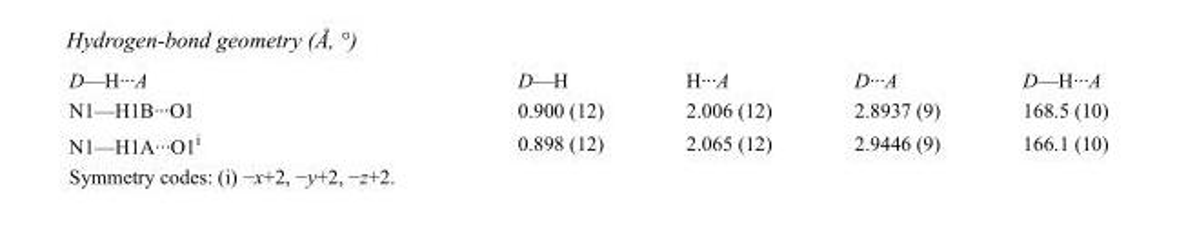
<table><tbody><tr><td>D—H···A</td><td>D—H</td><td>H···A</td><td>D···A</td><td>D—H···A</td></tr><tr><td>N1—H1B···O1</td><td>0.900 (12)</td><td>2.006 (12)</td><td>2.8937 (9)</td><td>168.5 (10)</td></tr><tr><td>N1—H1A···O1<sup>i</sup></td><td>0.898 (12)</td><td>2.065 (12)</td><td>2.9446 (9)</td><td>166.1 (10)</td></tr></tbody></table>